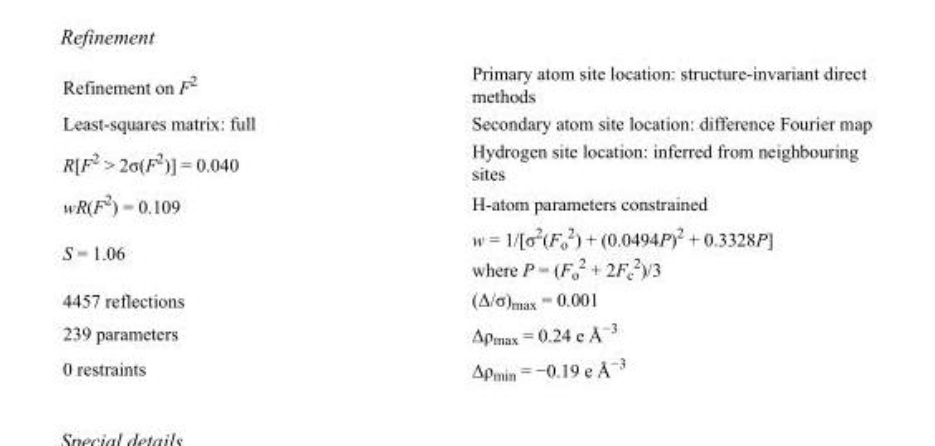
<table><tbody><tr><td>Refinement on F<sup>2</sup></td><td>Primary atom site location: structure-invariant direct methods</td></tr><tr><td>Least-squares matrix: full</td><td>Secondary atom site location: difference Fourier map</td></tr><tr><td>R[F<sup>2</sup> &gt; 2σ(F<sup>2</sup>)] = 0.040</td><td>Hydrogen site location: inferred from neighbouring sites</td></tr><tr><td>wR(F<sup>2</sup>) = 0.109</td><td>H-atom parameters constrained</td></tr><tr><td>S = 1.06</td><td>w = 1/[σ<sup>2</sup>(F<sub>o</sub> <sup>2</sup>) + (0.0494P)<sup>2</sup> + 0.3328P] where P = (F<sub>o</sub> <sup>2</sup> + 2F<sub>c</sub> <sup>2</sup>)/3</td></tr><tr><td>4457 reflections</td><td>(Δ/σ)<sub>max</sub> = 0.001</td></tr><tr><td>239 parameters</td><td>Δρ<sub>max</sub> = 0.24 e Å<sup>−3</sup></td></tr><tr><td>0 restraints</td><td>Δρ<sub>min</sub> = −0.19 e Å<sup>−3</sup></td></tr></tbody></table>